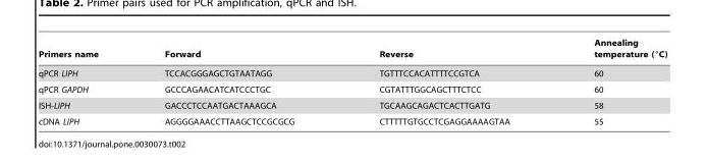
<table><thead><tr><td>Primers name</td><td>Forward</td><td>Reverse</td><td>Annealing temperature (°C)</td></tr></thead><tbody><tr><td>qPCR LIPH</td><td>TCCACGGGAGCTGTAATAGG</td><td>TGTTTCCACATTTTCCGTCA</td><td>60</td></tr><tr><td>qPCR GAPDH</td><td>GCCCAGAACATCATCCCTGC</td><td>CGTATTTGGCAGCTTTCTCC</td><td>60</td></tr><tr><td>ISH-LIPH</td><td>GACCCTCCAATGACTAAAGCA</td><td>TGCAAGCAGACTCACTTGATG</td><td>58</td></tr><tr><td>cDNA LIPH</td><td>AGGGGAAACCTTAAGCTCCGCGCG</td><td>CTTTTTGTGCCTCGAGGAAAAGTAA</td><td>55</td></tr></tbody></table>